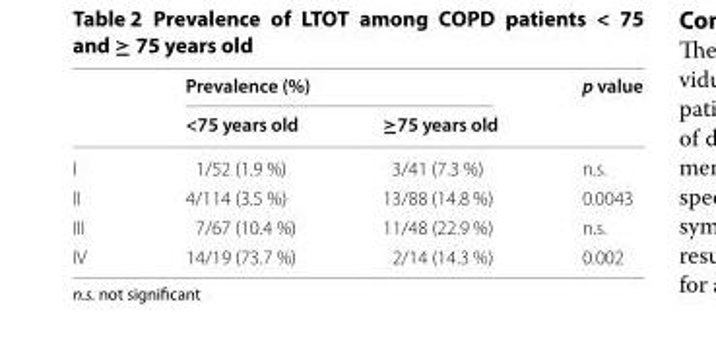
<table><thead><tr><td rowspan="2"></td><td colspan="2">Prevalence (%)</td><td rowspan="2">p value</td></tr><tr><td>&lt;75 years old</td><td>≥75 years old</td></tr></thead><tbody><tr><td>I</td><td>1/52 (1.9 %)</td><td>3/41 (7.3 %)</td><td>n.s.</td></tr><tr><td>II</td><td>4/114 (3.5 %)</td><td>13/88 (14.8 %)</td><td>0.0043</td></tr><tr><td>III</td><td>7/67 (10.4 %)</td><td>11/48 (22.9 %)</td><td>n.s.</td></tr><tr><td>IV</td><td>14/19 (73.7 %)</td><td>2/14 (14.3 %)</td><td>0.002</td></tr></tbody></table>